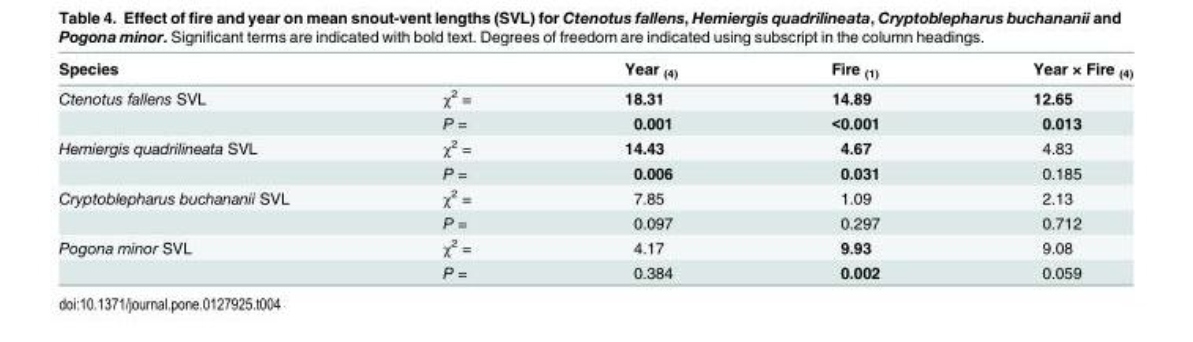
<table><thead><tr><td>Species</td><td></td><td>Year <sub>(4)</sub></td><td>Fire <sub>(1)</sub></td><td>Year × Fire <sub>(4)</sub></td></tr></thead><tbody><tr><td rowspan="2">Ctenotus fallens SVL</td><td>χ<sup>2</sup> =</td><td>18.31</td><td>14.89</td><td>12.65</td></tr><tr><td>P =</td><td>0.001</td><td>&lt;0.001</td><td>0.013</td></tr><tr><td rowspan="2">Hemiergis quadrilineata SVL</td><td>χ<sup>2</sup> =</td><td>14.43</td><td>4.67</td><td>4.83</td></tr><tr><td>P =</td><td>0.006</td><td>0.031</td><td>0.185</td></tr><tr><td rowspan="2">Cryptoblepharus buchananii SVL</td><td>χ<sup>2</sup> =</td><td>7.85</td><td>1.09</td><td>2.13</td></tr><tr><td>P =</td><td>0.097</td><td>0.297</td><td>0.712</td></tr><tr><td rowspan="2">Pogona minor SVL</td><td>χ<sup>2</sup> =</td><td>4.17</td><td>9.93</td><td>9.08</td></tr><tr><td>P =</td><td>0.384</td><td>0.002</td><td>0.059</td></tr></tbody></table>